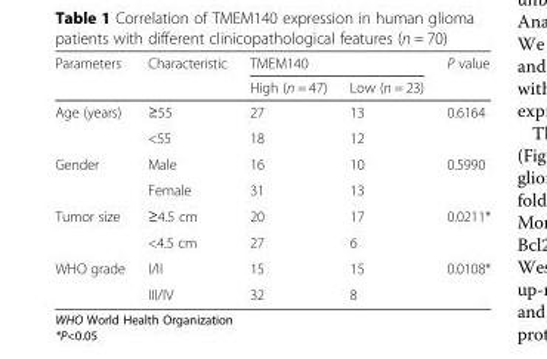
<table><thead><tr><td rowspan="2">Parameters</td><td rowspan="2">Characteristic</td><td colspan="2">TMEM140</td><td rowspan="2">P value</td></tr><tr><td>High (n = 47)</td><td>Low (n = 23)</td></tr></thead><tbody><tr><td rowspan="2">Age (years)</td><td>≥55</td><td>27</td><td>13</td><td rowspan="2">0.6164</td></tr><tr><td>&lt;55</td><td>18</td><td>12</td></tr><tr><td rowspan="2">Gender</td><td>Male</td><td>16</td><td>10</td><td rowspan="2">0.5990</td></tr><tr><td>Female</td><td>31</td><td>13</td></tr><tr><td rowspan="2">Tumor size</td><td>≥4.5 cm</td><td>20</td><td>17</td><td rowspan="2">0.0211*</td></tr><tr><td>&lt;4.5 cm</td><td>27</td><td>6</td></tr><tr><td rowspan="2">WHO grade</td><td>I/II</td><td>15</td><td>15</td><td rowspan="2">0.0108*</td></tr><tr><td>III/IV</td><td>32</td><td>8</td></tr></tbody></table>